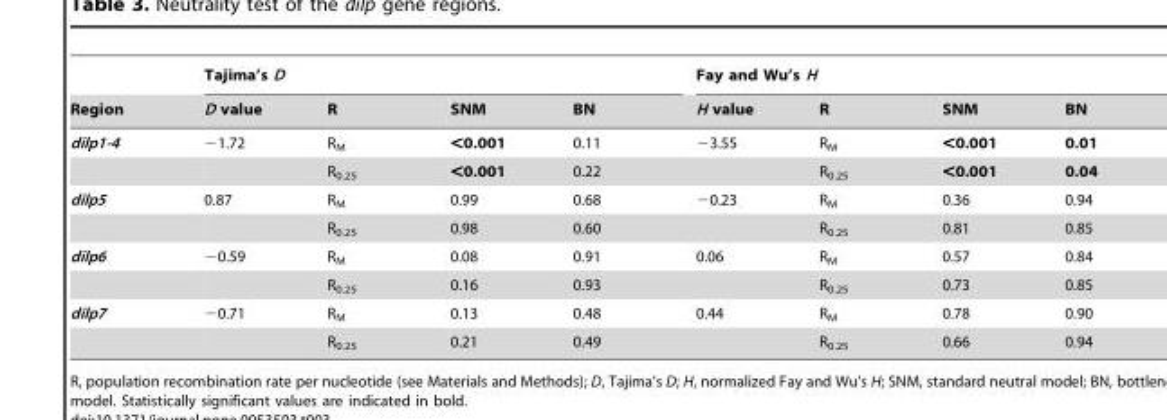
<table><thead><tr><td rowspan="2">Region</td><td colspan="4">Tajima’s D</td><td colspan="4">Fay and Wu’s H</td></tr><tr><td>D value</td><td>R</td><td>SNM</td><td>BN</td><td>H value</td><td>R</td><td>SNM</td><td>BN</td></tr></thead><tbody><tr><td rowspan="2">dilp1-4</td><td>−1.72</td><td>R<sub>M</sub></td><td>&lt;0.001</td><td>0.11</td><td>−3.55</td><td>R<sub>M</sub></td><td>&lt;0.001</td><td>0.01</td></tr><tr><td></td><td>R<sub>0.25</sub></td><td>&lt;0.001</td><td>0.22</td><td></td><td>R<sub>0.25</sub></td><td>&lt;0.001</td><td>0.04</td></tr><tr><td rowspan="2">dilp5</td><td>0.87</td><td>R<sub>M</sub></td><td>0.99</td><td>0.68</td><td>−0.23</td><td>R<sub>M</sub></td><td>0.36</td><td>0.94</td></tr><tr><td></td><td>R<sub>0.25</sub></td><td>0.98</td><td>0.60</td><td></td><td>R<sub>0.25</sub></td><td>0.81</td><td>0.85</td></tr><tr><td rowspan="2">dilp6</td><td>−0.59</td><td>R<sub>M</sub></td><td>0.08</td><td>0.91</td><td>0.06</td><td>R<sub>M</sub></td><td>0.57</td><td>0.84</td></tr><tr><td></td><td>R<sub>0.25</sub></td><td>0.16</td><td>0.93</td><td></td><td>R<sub>0.25</sub></td><td>0.73</td><td>0.85</td></tr><tr><td rowspan="2">dilp7</td><td>−0.71</td><td>R<sub>M</sub></td><td>0.13</td><td>0.48</td><td>0.44</td><td>R<sub>M</sub></td><td>0.78</td><td>0.90</td></tr><tr><td></td><td>R<sub>0.25</sub></td><td>0.21</td><td>0.49</td><td></td><td>R<sub>0.25</sub></td><td>0.66</td><td>0.94</td></tr></tbody></table>